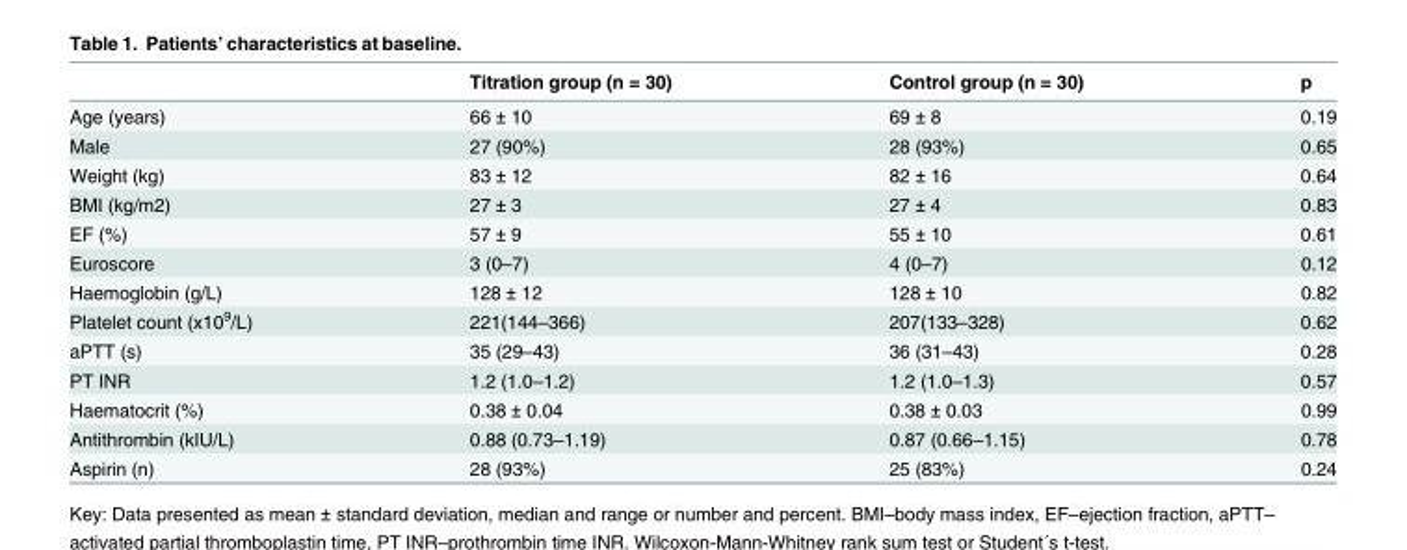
<table><thead><tr><td></td><td>Titration group (n = 30)</td><td>Control group (n = 30)</td><td>p</td></tr></thead><tbody><tr><td>Age (years)</td><td>66 ± 10</td><td>69 ± 8</td><td>0.19</td></tr><tr><td>Male</td><td>27 (90%)</td><td>28 (93%)</td><td>0.65</td></tr><tr><td>Weight (kg)</td><td>83 ± 12</td><td>82 ± 16</td><td>0.64</td></tr><tr><td>BMI (kg/m2)</td><td>27 ± 3</td><td>27 ± 4</td><td>0.83</td></tr><tr><td>EF (%)</td><td>57 ± 9</td><td>55 ± 10</td><td>0.61</td></tr><tr><td>Euroscore</td><td>3 (0–7)</td><td>4 (0–7)</td><td>0.12</td></tr><tr><td>Haemoglobin (g/L)</td><td>128 ± 12</td><td>128 ± 10</td><td>0.82</td></tr><tr><td>Platelet count (x10<sup>9</sup>/L)</td><td>221(144–366)</td><td>207(133–328)</td><td>0.62</td></tr><tr><td>aPTT (s)</td><td>35 (29–43)</td><td>36 (31–43)</td><td>0.28</td></tr><tr><td>PT INR</td><td>1.2 (1.0–1.2)</td><td>1.2 (1.0–1.3)</td><td>0.57</td></tr><tr><td>Haematocrit (%)</td><td>0.38 ± 0.04</td><td>0.38 ± 0.03</td><td>0.99</td></tr><tr><td>Antithrombin (kIU/L)</td><td>0.88 (0.73–1.19)</td><td>0.87 (0.66–1.15)</td><td>0.78</td></tr><tr><td>Aspirin (n)</td><td>28 (93%)</td><td>25 (83%)</td><td>0.24</td></tr></tbody></table>